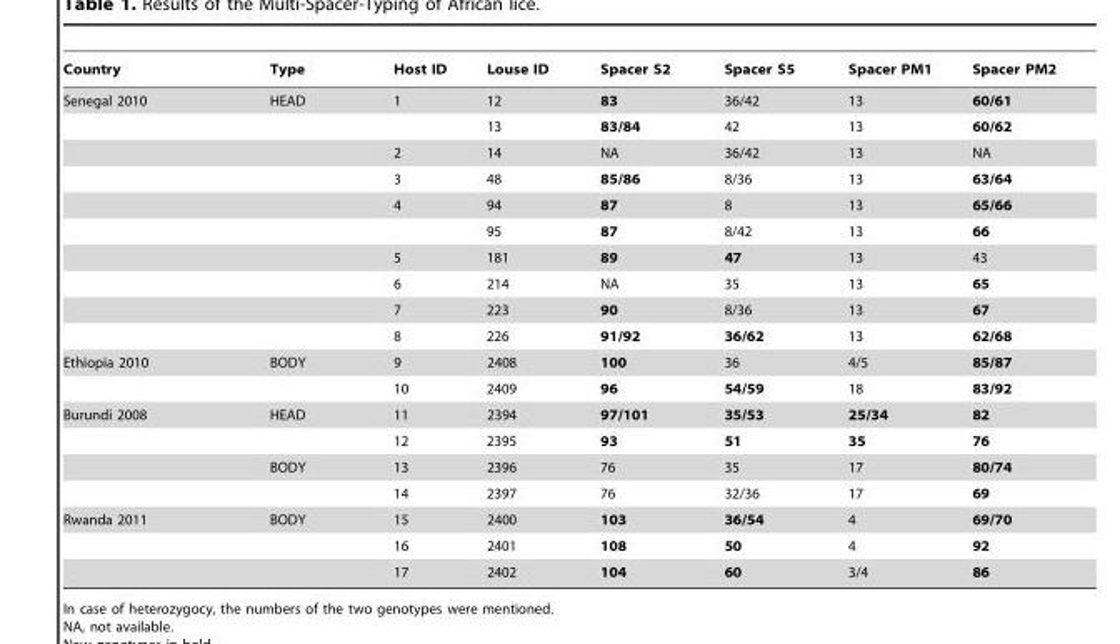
<table><thead><tr><td>Country</td><td>Type</td><td>Host ID</td><td>Louse ID</td><td>Spacer S2</td><td>Spacer S5</td><td>Spacer PM1</td><td>Spacer PM2</td></tr></thead><tbody><tr><td rowspan="10">Senegal 2010</td><td>HEAD</td><td>1</td><td>12</td><td>83</td><td>36/42</td><td>13</td><td>60/61</td></tr><tr><td></td><td></td><td>13</td><td>83/84</td><td>42</td><td>13</td><td>60/62</td></tr><tr><td></td><td>2</td><td>14</td><td>NA</td><td>36/42</td><td>13</td><td>NA</td></tr><tr><td></td><td>3</td><td>48</td><td>85/86</td><td>8/36</td><td>13</td><td>63/64</td></tr><tr><td></td><td>4</td><td>94</td><td>87</td><td>8</td><td>13</td><td>65/66</td></tr><tr><td></td><td></td><td>95</td><td>87</td><td>8/42</td><td>13</td><td>66</td></tr><tr><td></td><td>5</td><td>181</td><td>89</td><td>47</td><td>13</td><td>43</td></tr><tr><td></td><td>6</td><td>214</td><td>NA</td><td>35</td><td>13</td><td>65</td></tr><tr><td></td><td>7</td><td>223</td><td>90</td><td>8/36</td><td>13</td><td>67</td></tr><tr><td></td><td>8</td><td>226</td><td>91/92</td><td>36/62</td><td>13</td><td>62/68</td></tr><tr><td rowspan="2">Ethiopia 2010</td><td>BODY</td><td>9</td><td>2408</td><td>100</td><td>36</td><td>4/5</td><td>85/87</td></tr><tr><td></td><td>10</td><td>2409</td><td>96</td><td>54/59</td><td>18</td><td>83/92</td></tr><tr><td rowspan="4">Burundi 2008</td><td>HEAD</td><td>11</td><td>2394</td><td>97/101</td><td>35/53</td><td>25/34</td><td>82</td></tr><tr><td></td><td>12</td><td>2395</td><td>93</td><td>51</td><td>35</td><td>76</td></tr><tr><td>BODY</td><td>13</td><td>2396</td><td>76</td><td>35</td><td>17</td><td>80/74</td></tr><tr><td></td><td>14</td><td>2397</td><td>76</td><td>32/36</td><td>17</td><td>69</td></tr><tr><td rowspan="3">Rwanda 2011</td><td>BODY</td><td>15</td><td>2400</td><td>103</td><td>36/54</td><td>4</td><td>69/70</td></tr><tr><td></td><td>16</td><td>2401</td><td>108</td><td>50</td><td>4</td><td>92</td></tr><tr><td></td><td>17</td><td>2402</td><td>104</td><td>60</td><td>3/4</td><td>86</td></tr></tbody></table>